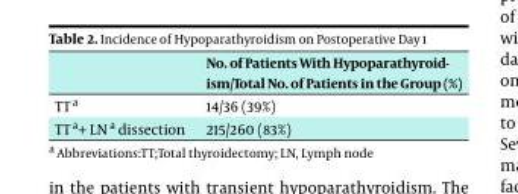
<table><thead><tr><td></td><td>No. of Patients With Hypoparathyroid- ism/Total No. of Patients in the Group (%)</td></tr></thead><tbody><tr><td>TT <sup>a</sup></td><td>14/36 (39%)</td></tr><tr><td>TT <sup>a</sup>+ LN <sup>a</sup> dissection</td><td>215/260 (83%)</td></tr></tbody></table>